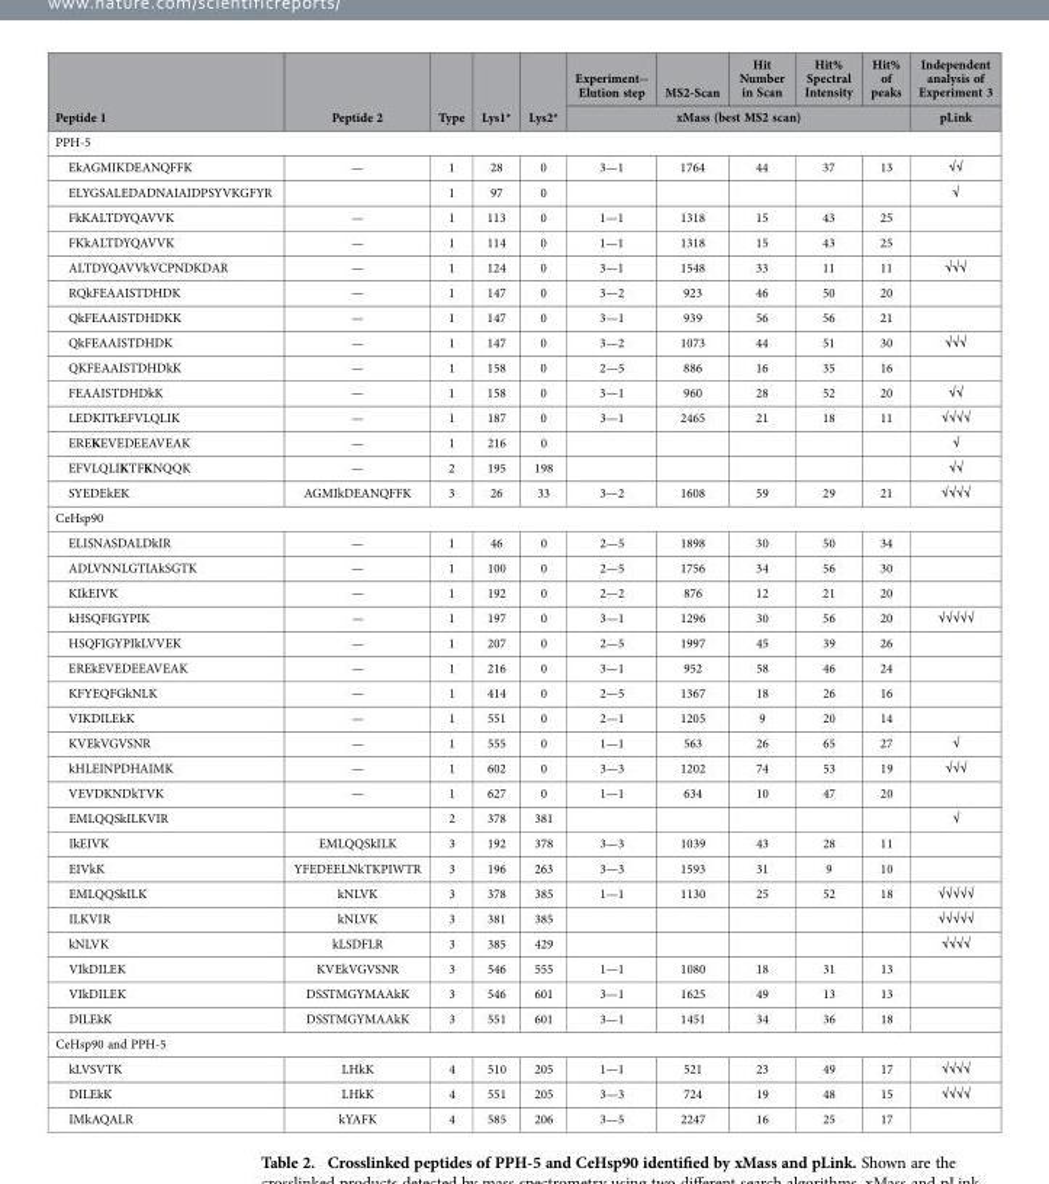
<table><thead><tr><td rowspan="2">Peptide 1</td><td rowspan="2">Peptide 2</td><td rowspan="2">Type</td><td rowspan="2">Lys1*</td><td rowspan="2">Lys2*</td><td>Experiment-- Elution step</td><td>MS2-Scan</td><td>Hit Number in Scan</td><td>Hit% Spectral Intensity</td><td>Hit% of peaks</td><td rowspan="2">Independent analysis of Experiment 3 pLink</td></tr><tr><td colspan="5">xMass (best MS2 scan)</td></tr></thead><tbody><tr><td colspan="11">PPH-5</td></tr><tr><td>EkAGMIKDEANQFFK</td><td>—</td><td>1</td><td>28</td><td>0</td><td>3—1</td><td>1764</td><td>44</td><td>37</td><td>13</td><td>√√</td></tr><tr><td>ELYGSALEDADNAIAIDPSYVKGFYR</td><td></td><td>1</td><td>97</td><td>0</td><td></td><td></td><td></td><td></td><td></td><td>√</td></tr><tr><td>FkKALTDYQAVVK</td><td>—</td><td>1</td><td>113</td><td>0</td><td>1—1</td><td>1318</td><td>15</td><td>43</td><td>25</td><td></td></tr><tr><td>FKkALTDYQAVVK</td><td>—</td><td>1</td><td>114</td><td>0</td><td>1—1</td><td>1318</td><td>15</td><td>43</td><td>25</td><td></td></tr><tr><td>ALTDYQAVVkVCPNDKDAR</td><td>—</td><td>1</td><td>124</td><td>0</td><td>3—1</td><td>1548</td><td>33</td><td>11</td><td>11</td><td>√√√</td></tr><tr><td>RQkFEAAISTDHDK</td><td>—</td><td>1</td><td>147</td><td>0</td><td>3—2</td><td>923</td><td>46</td><td>50</td><td>20</td><td></td></tr><tr><td>QkFEAAISTDHDKK</td><td>—</td><td>1</td><td>147</td><td>0</td><td>3—1</td><td>939</td><td>56</td><td>56</td><td>21</td><td></td></tr><tr><td>QkFEAAISTDHDK</td><td>—</td><td>1</td><td>147</td><td>0</td><td>3—2</td><td>1073</td><td>44</td><td>51</td><td>30</td><td>√√√</td></tr><tr><td>QKFEAAISTDHDkK</td><td>—</td><td>1</td><td>158</td><td>0</td><td>2—5</td><td>886</td><td>16</td><td>35</td><td>16</td><td></td></tr><tr><td>FEAAISTDHDkK</td><td>—</td><td>1</td><td>158</td><td>0</td><td>3—1</td><td>960</td><td>28</td><td>52</td><td>20</td><td>√√</td></tr><tr><td>LEDKITkEFVLQLIK</td><td>—</td><td>1</td><td>187</td><td>0</td><td>3—1</td><td>2465</td><td>21</td><td>18</td><td>11</td><td>√√√√</td></tr><tr><td>EREKEVEDEEAVEAK</td><td>—</td><td>1</td><td>216</td><td>0</td><td></td><td></td><td></td><td></td><td></td><td>√</td></tr><tr><td>EFVLQLIKTFKNQQK</td><td>—</td><td>2</td><td>195</td><td>198</td><td></td><td></td><td></td><td></td><td></td><td>√√</td></tr><tr><td>SYEDEkEK</td><td>AGMIkDEANQFFK</td><td>3</td><td>26</td><td>33</td><td>3—2</td><td>1608</td><td>59</td><td>29</td><td>21</td><td>√√√√</td></tr><tr><td colspan="11">CeHsp90</td></tr><tr><td>ELISNASDALDkIR</td><td>—</td><td>1</td><td>46</td><td>0</td><td>2—5</td><td>1898</td><td>30</td><td>50</td><td>34</td><td></td></tr><tr><td>ADLVNNLGTIAkSGTK</td><td>—</td><td>1</td><td>100</td><td>0</td><td>2—5</td><td>1756</td><td>34</td><td>56</td><td>30</td><td></td></tr><tr><td>KIkEIVK</td><td>—</td><td>1</td><td>192</td><td>0</td><td>2—2</td><td>876</td><td>12</td><td>21</td><td>20</td><td></td></tr><tr><td>kHSQFIGYPIK</td><td>—</td><td>1</td><td>197</td><td>0</td><td>3—1</td><td>1296</td><td>30</td><td>56</td><td>20</td><td>√√√√√</td></tr><tr><td>HSQFIGYPIkLVVEK</td><td>—</td><td>1</td><td>207</td><td>0</td><td>2—5</td><td>1997</td><td>45</td><td>39</td><td>26</td><td></td></tr><tr><td>EREkEVEDEEAVEAK</td><td>—</td><td>1</td><td>216</td><td>0</td><td>3—1</td><td>952</td><td>58</td><td>46</td><td>24</td><td></td></tr><tr><td>KFYEQFGkNLK</td><td>—</td><td>1</td><td>414</td><td>0</td><td>2—5</td><td>1367</td><td>18</td><td>26</td><td>16</td><td></td></tr><tr><td>VIKDILEkK</td><td>—</td><td>1</td><td>551</td><td>0</td><td>2—1</td><td>1205</td><td>9</td><td>20</td><td>14</td><td></td></tr><tr><td>KVEkVGVSNR</td><td>—</td><td>1</td><td>555</td><td>0</td><td>1—1</td><td>563</td><td>26</td><td>65</td><td>27</td><td>√</td></tr><tr><td>kHLEINPDHAIMK</td><td>—</td><td>1</td><td>602</td><td>0</td><td>3—3</td><td>1202</td><td>74</td><td>53</td><td>19</td><td>√√√</td></tr><tr><td>VEVDKNDkTVK</td><td>—</td><td>1</td><td>627</td><td>0</td><td>1—1</td><td>634</td><td>10</td><td>47</td><td>20</td><td></td></tr><tr><td>EMLQQSkILKVIR</td><td></td><td>2</td><td>378</td><td>381</td><td></td><td></td><td></td><td></td><td></td><td>√</td></tr><tr><td>IkEIVK</td><td>EMLQQSkILK</td><td>3</td><td>192</td><td>378</td><td>3—3</td><td>1039</td><td>43</td><td>28</td><td>11</td><td></td></tr><tr><td>EIVkK</td><td>YFEDEELNkTKPIWTR</td><td>3</td><td>196</td><td>263</td><td>3—3</td><td>1593</td><td>31</td><td>9</td><td>10</td><td></td></tr><tr><td>EMLQQSkILK</td><td>kNLVK</td><td>3</td><td>378</td><td>385</td><td>1—1</td><td>1130</td><td>25</td><td>52</td><td>18</td><td>√√√√√</td></tr><tr><td>ILKVIR</td><td>kNLVK</td><td>3</td><td>381</td><td>385</td><td></td><td></td><td></td><td></td><td></td><td>√√√√√</td></tr><tr><td>kNLVK</td><td>kLSDFLR</td><td>3</td><td>385</td><td>429</td><td></td><td></td><td></td><td></td><td></td><td>√√√√</td></tr><tr><td>VIkDILEK</td><td>KVEkVGVSNR</td><td>3</td><td>546</td><td>555</td><td>1—1</td><td>1080</td><td>18</td><td>31</td><td>13</td><td></td></tr><tr><td>VIkDILEK</td><td>DSSTMGYMAAkK</td><td>3</td><td>546</td><td>601</td><td>3—1</td><td>1625</td><td>49</td><td>13</td><td>13</td><td></td></tr><tr><td>DILEkK</td><td>DSSTMGYMAAkK</td><td>3</td><td>551</td><td>601</td><td>3—1</td><td>1451</td><td>34</td><td>36</td><td>18</td><td></td></tr><tr><td colspan="11">CeHsp90 and PPH-5</td></tr><tr><td>kLVSVTK</td><td>LHkK</td><td>4</td><td>510</td><td>205</td><td>1—1</td><td>521</td><td>23</td><td>49</td><td>17</td><td>√√√√</td></tr><tr><td>DILEkK</td><td>LHkK</td><td>4</td><td>551</td><td>205</td><td>3—3</td><td>724</td><td>19</td><td>48</td><td>15</td><td>√√√√</td></tr><tr><td>IMkAQALR</td><td>kYAFK</td><td>4</td><td>585</td><td>206</td><td>3—5</td><td>2247</td><td>16</td><td>25</td><td>17</td><td></td></tr></tbody></table>